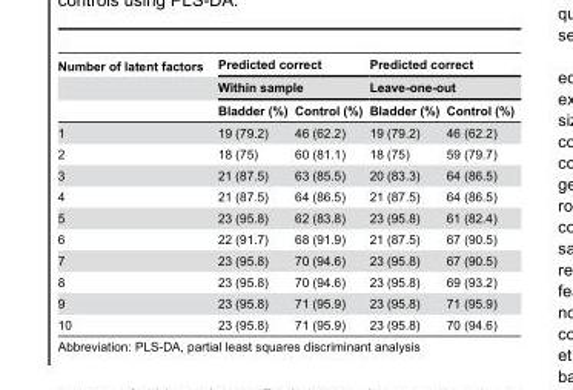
<table><thead><tr><td rowspan="3">Number of latent factors</td><td rowspan="2" colspan="2">Predicted correct Within sample</td><td rowspan="2" colspan="2">Predicted correct Leave-one-out</td></tr><tr></tr><tr><td>Bladder (%)</td><td>Control (%)</td><td>Bladder (%)</td><td>Control (%)</td></tr></thead><tbody><tr><td>1</td><td>19 (79.2)</td><td>46 (62.2)</td><td>19 (79.2)</td><td>46 (62.2)</td></tr><tr><td>2</td><td>18 (75)</td><td>60 (81.1)</td><td>18 (75)</td><td>59 (79.7)</td></tr><tr><td>3</td><td>21 (87.5)</td><td>63 (85.5)</td><td>20 (83.3)</td><td>64 (86.5)</td></tr><tr><td>4</td><td>21 (87.5)</td><td>64 (86.5)</td><td>21 (87.5)</td><td>64 (86.5)</td></tr><tr><td>5</td><td>23 (95.8)</td><td>62 (83.8)</td><td>23 (95.8)</td><td>61 (82.4)</td></tr><tr><td>6</td><td>22 (91.7)</td><td>68 (91.9)</td><td>21 (87.5)</td><td>67 (90.5)</td></tr><tr><td>7</td><td>23 (95.8)</td><td>70 (94.6)</td><td>23 (95.8)</td><td>67 (90.5)</td></tr><tr><td>8</td><td>23 (95.8)</td><td>70 (94.6)</td><td>23 (95.8)</td><td>69 (93.2)</td></tr><tr><td>9</td><td>23 (95.8)</td><td>71 (95.9)</td><td>23 (95.8)</td><td>71 (95.9)</td></tr><tr><td>10</td><td>23 (95.8)</td><td>71 (95.9)</td><td>23 (95.8)</td><td>70 (94.6)</td></tr></tbody></table>